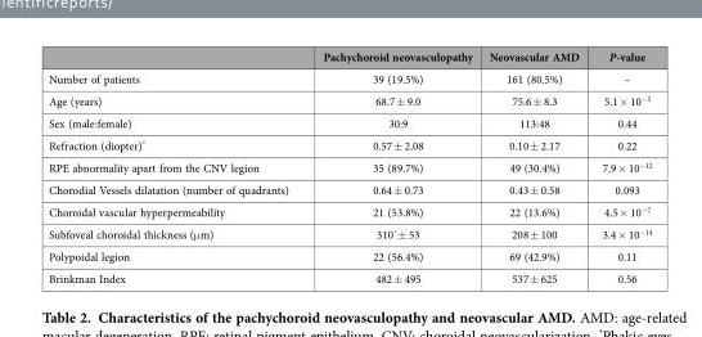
<table><thead><tr><td></td><td>Pachychoroid neovasculopathy</td><td>Neovascular AMD</td><td>P-value</td></tr></thead><tbody><tr><td>Number of patients</td><td>39 (19.5%)</td><td>161 (80.5%)</td><td>–</td></tr><tr><td>Age (years)</td><td>68.7 ± 9.0</td><td>75.6 ± 8.3</td><td>5.1 × 10<sup>−5</sup></td></tr><tr><td>Sex (male:female)</td><td>30:9</td><td>113:48</td><td>0.44</td></tr><tr><td>Refraction (diopter)*</td><td>0.57 ± 2.08</td><td>0.10 ± 2.17</td><td>0.22</td></tr><tr><td>RPE abnormality apart from the CNV legion</td><td>35 (89.7%)</td><td>49 (30.4%)</td><td>7.9 × 10<sup>−12</sup></td></tr><tr><td>Chorodial Vessels dilatation (number of quadrants)</td><td>0.64 ± 0.73</td><td>0.43 ± 0.58</td><td>0.093</td></tr><tr><td>Choroidal vascular hyperpermeability</td><td>21 (53.8%)</td><td>22 (13.6%)</td><td>4.5 × 10<sup>−7</sup></td></tr><tr><td>Subfoveal choroidal thickness (μ m)</td><td>310`± 53</td><td>208 ± 100</td><td>3.4 × 10<sup>−14</sup></td></tr><tr><td>Polypoidal legion</td><td>22 (56.4%)</td><td>69 (42.9%)</td><td>0.11</td></tr><tr><td>Brinkman Index</td><td>482 ± 495</td><td>537 ± 625</td><td>0.56</td></tr></tbody></table>